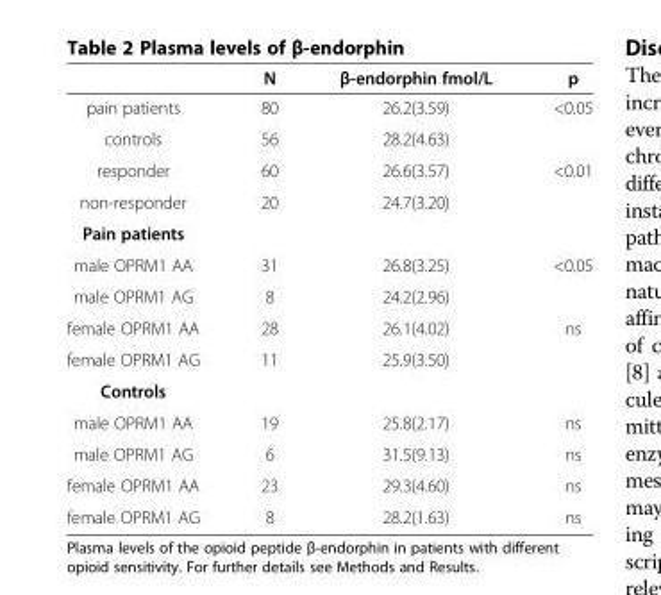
<table><thead><tr><td></td><td>N</td><td>β-endorphin fmol/L</td><td>p</td></tr></thead><tbody><tr><td>pain patients</td><td>80</td><td>26.2(3.59)</td><td>&lt;0.05</td></tr><tr><td>controls</td><td>56</td><td>28.2(4.63)</td><td></td></tr><tr><td>responder</td><td>60</td><td>26.6(3.57)</td><td>&lt;0.01</td></tr><tr><td>non-responder</td><td>20</td><td>24.7(3.20)</td><td></td></tr><tr><td colspan="4">Pain patients</td></tr><tr><td>male OPRM1 AA</td><td>31</td><td>26.8(3.25)</td><td>&lt;0.05</td></tr><tr><td>male OPRM1 AG</td><td>8</td><td>24.2(2.96)</td><td></td></tr><tr><td>female OPRM1 AA</td><td>28</td><td>26.1(4.02)</td><td>ns</td></tr><tr><td>female OPRM1 AG</td><td>11</td><td>25.9(3.50)</td><td></td></tr><tr><td colspan="4">Controls</td></tr><tr><td>male OPRM1 AA</td><td>19</td><td>25.8(2.17)</td><td>ns</td></tr><tr><td>male OPRM1 AG</td><td>6</td><td>31.5(9.13)</td><td>ns</td></tr><tr><td>female OPRM1 AA</td><td>23</td><td>29.3(4.60)</td><td>ns</td></tr><tr><td>female OPRM1 AG</td><td>8</td><td>28.2(1.63)</td><td>ns</td></tr></tbody></table>